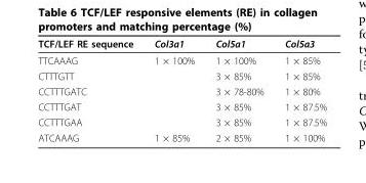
<table><thead><tr><td>TCF/LEF RE sequence</td><td>Col3a1</td><td>Col5a1</td><td>Col5a3</td></tr></thead><tbody><tr><td>TTCAAAG</td><td>1 × 100%</td><td>1 × 100%</td><td>1 × 85%</td></tr><tr><td>CTTTGTT</td><td></td><td>3 × 85%</td><td>1 × 85%</td></tr><tr><td>CCTTTGATC</td><td></td><td>3 × 78-80%</td><td>1 × 80%</td></tr><tr><td>CCTTTGAT</td><td></td><td>3 × 85%</td><td>1 × 87.5%</td></tr><tr><td>CCTTTGAA</td><td></td><td>3 × 85%</td><td>1 × 87.5%</td></tr><tr><td>ATCAAAG</td><td>1 × 85%</td><td>2 × 85%</td><td>1 × 100%</td></tr></tbody></table>